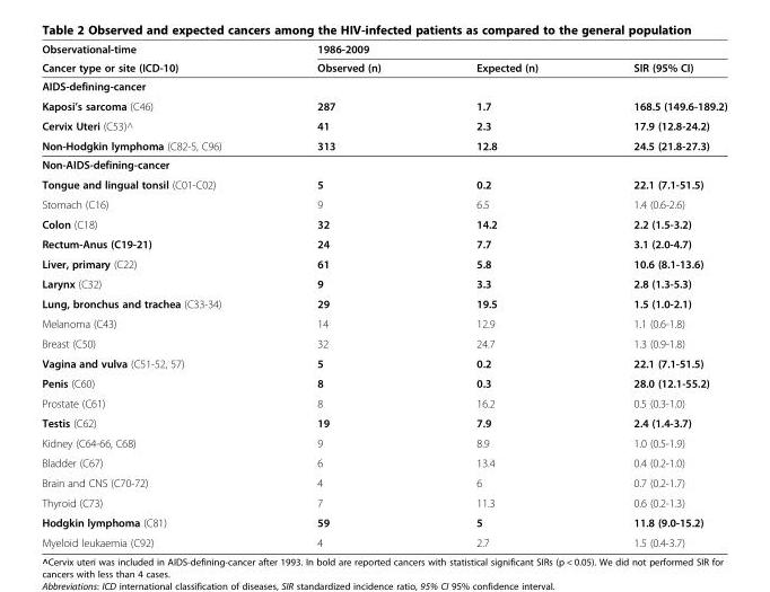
<table><thead><tr><td rowspan="2">Observational-time Cancer type or site (ICD-10)</td><td colspan="3">1986-2009</td></tr><tr><td>Observed (n)</td><td>Expected (n)</td><td>SIR (95% CI)</td></tr></thead><tbody><tr><td colspan="4">AIDS-defining-cancer</td></tr><tr><td>Kaposi’s sarcoma (C46)</td><td>287</td><td>1.7</td><td>168.5 (149.6-189.2)</td></tr><tr><td>Cervix Uteri (C53)^</td><td>41</td><td>2.3</td><td>17.9 (12.8-24.2)</td></tr><tr><td>Non-Hodgkin lymphoma (C82-5, C96)</td><td>313</td><td>12.8</td><td>24.5 (21.8-27.3)</td></tr><tr><td colspan="4">Non-AIDS-defining-cancer</td></tr><tr><td>Tongue and lingual tonsil (C01-C02)</td><td>5</td><td>0.2</td><td>22.1 (7.1-51.5)</td></tr><tr><td>Stomach (C16)</td><td>9</td><td>6.5</td><td>1.4 (0.6-2.6)</td></tr><tr><td>Colon (C18)</td><td>32</td><td>14.2</td><td>2.2 (1.5-3.2)</td></tr><tr><td>Rectum-Anus (C19-21)</td><td>24</td><td>7.7</td><td>3.1 (2.0-4.7)</td></tr><tr><td>Liver, primary (C22)</td><td>61</td><td>5.8</td><td>10.6 (8.1-13.6)</td></tr><tr><td>Larynx (C32)</td><td>9</td><td>3.3</td><td>2.8 (1.3-5.3)</td></tr><tr><td>Lung, bronchus and trachea (C33-34)</td><td>29</td><td>19.5</td><td>1.5 (1.0-2.1)</td></tr><tr><td>Melanoma (C43)</td><td>14</td><td>12.9</td><td>1.1 (0.6-1.8)</td></tr><tr><td>Breast (C50)</td><td>32</td><td>24.7</td><td>1.3 (0.9-1.8)</td></tr><tr><td>Vagina and vulva (C51-52, 57)</td><td>5</td><td>0.2</td><td>22.1 (7.1-51.5)</td></tr><tr><td>Penis (C60)</td><td>8</td><td>0.3</td><td>28.0 (12.1-55.2)</td></tr><tr><td>Prostate (C61)</td><td>8</td><td>16.2</td><td>0.5 (0.3-1.0)</td></tr><tr><td>Testis (C62)</td><td>19</td><td>7.9</td><td>2.4 (1.4-3.7)</td></tr><tr><td>Kidney (C64-66, C68)</td><td>9</td><td>8.9</td><td>1.0 (0.5-1.9)</td></tr><tr><td>Bladder (C67)</td><td>6</td><td>13.4</td><td>0.4 (0.2-1.0)</td></tr><tr><td>Brain and CNS (C70-72)</td><td>4</td><td>6</td><td>0.7 (0.2-1.7)</td></tr><tr><td>Thyroid (C73)</td><td>7</td><td>11.3</td><td>0.6 (0.2-1.3)</td></tr><tr><td>Hodgkin lymphoma (C81)</td><td>59</td><td>5</td><td>11.8 (9.0-15.2)</td></tr><tr><td>Myeloid leukaemia (C92)</td><td>4</td><td>2.7</td><td>1.5 (0.4-3.7)</td></tr></tbody></table>